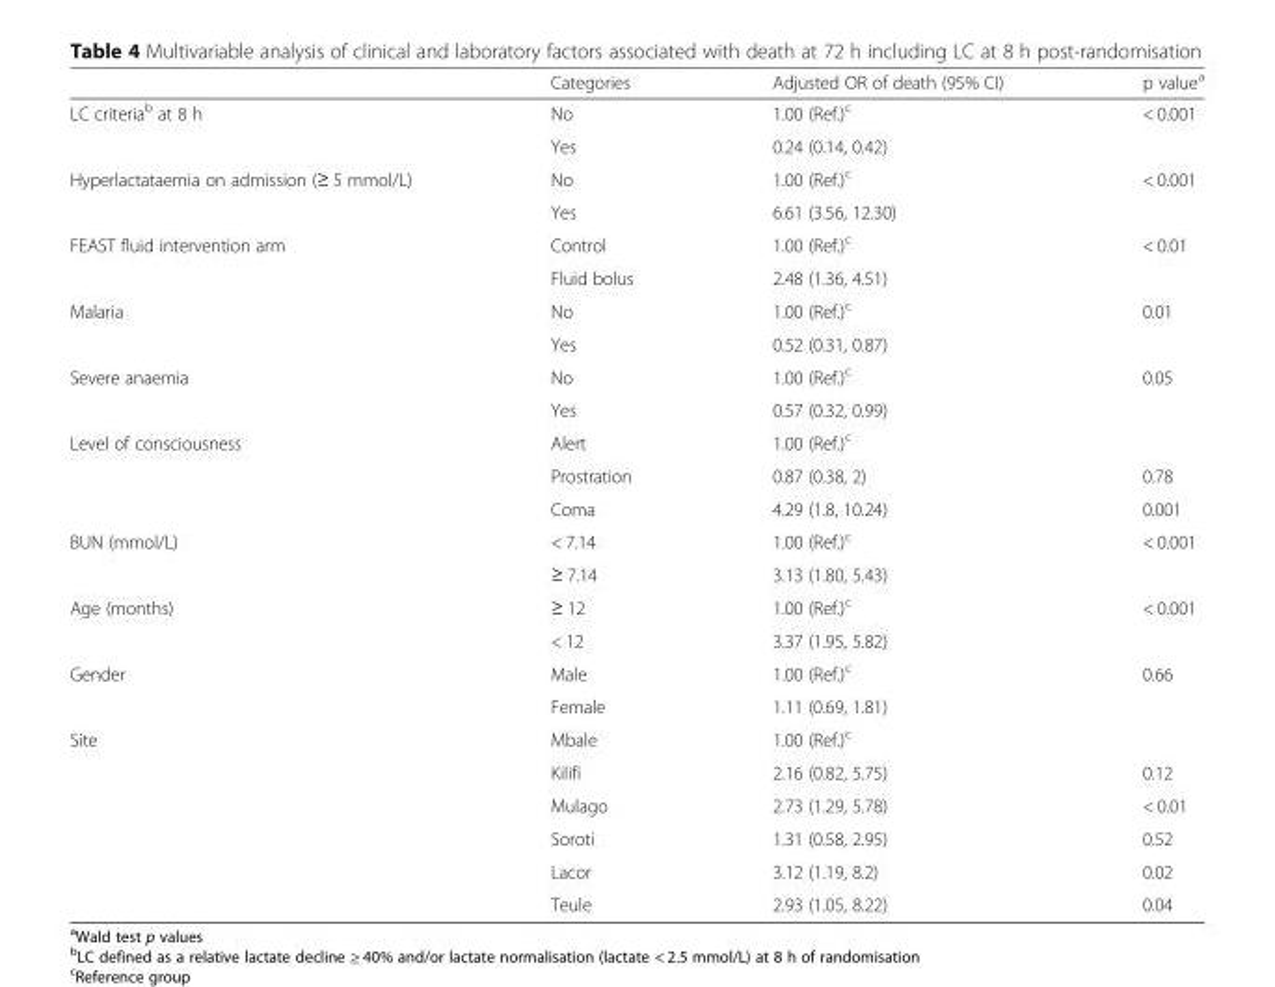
<table><thead><tr><td></td><td>Categories</td><td>Adjusted OR of death (95% CI)</td><td>p value<sup>a</sup></td></tr></thead><tbody><tr><td rowspan="2">LC criteria<sup>b</sup> at 8 h</td><td>No</td><td>1.00 (Ref.)<sup>c</sup></td><td rowspan="2">&lt; 0.001</td></tr><tr><td>Yes</td><td>0.24 (0.14, 0.42)</td></tr><tr><td rowspan="2">Hyperlactataemia on admission (≥ 5 mmol/L)</td><td>No</td><td>1.00 (Ref.)<sup>c</sup></td><td rowspan="2">&lt; 0.001</td></tr><tr><td>Yes</td><td>6.61 (3.56, 12.30)</td></tr><tr><td rowspan="2">FEAST fluid intervention arm</td><td>Control</td><td>1.00 (Ref.)<sup>c</sup></td><td rowspan="2">&lt; 0.01</td></tr><tr><td>Fluid bolus</td><td>2.48 (1.36, 4.51)</td></tr><tr><td rowspan="2">Malaria</td><td>No</td><td>1.00 (Ref.)<sup>c</sup></td><td rowspan="2">0.01</td></tr><tr><td>Yes</td><td>0.52 (0.31, 0.87)</td></tr><tr><td rowspan="2">Severe anaemia</td><td>No</td><td>1.00 (Ref.)<sup>c</sup></td><td rowspan="2">0.05</td></tr><tr><td>Yes</td><td>0.57 (0.32, 0.99)</td></tr><tr><td rowspan="3">Level of consciousness</td><td>Alert</td><td>1.00 (Ref.)<sup>c</sup></td><td></td></tr><tr><td>Prostration</td><td>0.87 (0.38, 2)</td><td>0.78</td></tr><tr><td>Coma</td><td>4.29 (1.8, 10.24)</td><td>0.001</td></tr><tr><td rowspan="2">BUN (mmol/L)</td><td>&lt; 7.14</td><td>1.00 (Ref.)<sup>c</sup></td><td rowspan="2">&lt; 0.001</td></tr><tr><td>≥ 7.14</td><td>3.13 (1.80, 5.43)</td></tr><tr><td rowspan="2">Age (months)</td><td>≥ 12</td><td>1.00 (Ref.)<sup>c</sup></td><td rowspan="2">&lt; 0.001</td></tr><tr><td>&lt; 12</td><td>3.37 (1.95, 5.82)</td></tr><tr><td rowspan="2">Gender</td><td>Male</td><td>1.00 (Ref.)<sup>c</sup></td><td rowspan="2">0.66</td></tr><tr><td>Female</td><td>1.11 (0.69, 1.81)</td></tr><tr><td rowspan="6">Site</td><td>Mbale</td><td>1.00 (Ref.)<sup>c</sup></td><td></td></tr><tr><td>Kilifi</td><td>2.16 (0.82, 5.75)</td><td>0.12</td></tr><tr><td>Mulago</td><td>2.73 (1.29, 5.78)</td><td>&lt; 0.01</td></tr><tr><td>Soroti</td><td>1.31 (0.58, 2.95)</td><td>0.52</td></tr><tr><td>Lacor</td><td>3.12 (1.19, 8.2)</td><td>0.02</td></tr><tr><td>Teule</td><td>2.93 (1.05, 8.22)</td><td>0.04</td></tr></tbody></table>